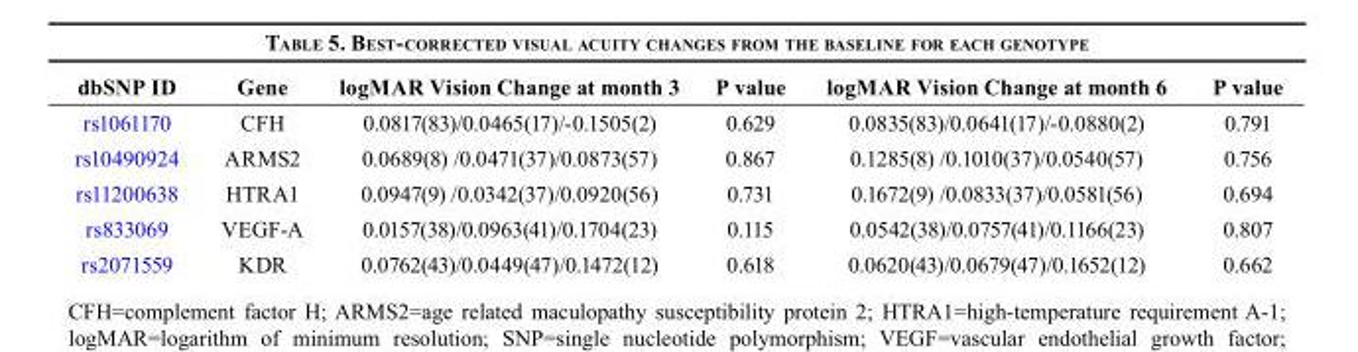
<table><thead><tr><td>dbSNP ID</td><td>Gene</td><td>logMAR Vision Change at month 3</td><td>P value</td><td>logMAR Vision Change at month 6</td><td>P value</td></tr></thead><tbody><tr><td>rs1061170</td><td>CFH</td><td>0.0817(83)/0.0465(17)/-0.1505(2)</td><td>0.629</td><td>0.0835(83)/0.0641(17)/-0.0880(2)</td><td>0.791</td></tr><tr><td>rs10490924</td><td>ARMS2</td><td>0.0689(8) /0.0471(37)/0.0873(57)</td><td>0.867</td><td>0.1285(8) /0.1010(37)/0.0540(57)</td><td>0.756</td></tr><tr><td>rs11200638</td><td>HTRA1</td><td>0.0947(9) /0.0342(37)/0.0920(56)</td><td>0.731</td><td>0.1672(9) /0.0833(37)/0.0581(56)</td><td>0.694</td></tr><tr><td>rs833069</td><td>VEGF-A</td><td>0.0157(38)/0.0963(41)/0.1704(23)</td><td>0.115</td><td>0.0542(38)/0.0757(41)/0.1166(23)</td><td>0.807</td></tr><tr><td>rs2071559</td><td>KDR</td><td>0.0762(43)/0.0449(47)/0.1472(12)</td><td>0.618</td><td>0.0620(43)/0.0679(47)/0.1652(12)</td><td>0.662</td></tr></tbody></table>